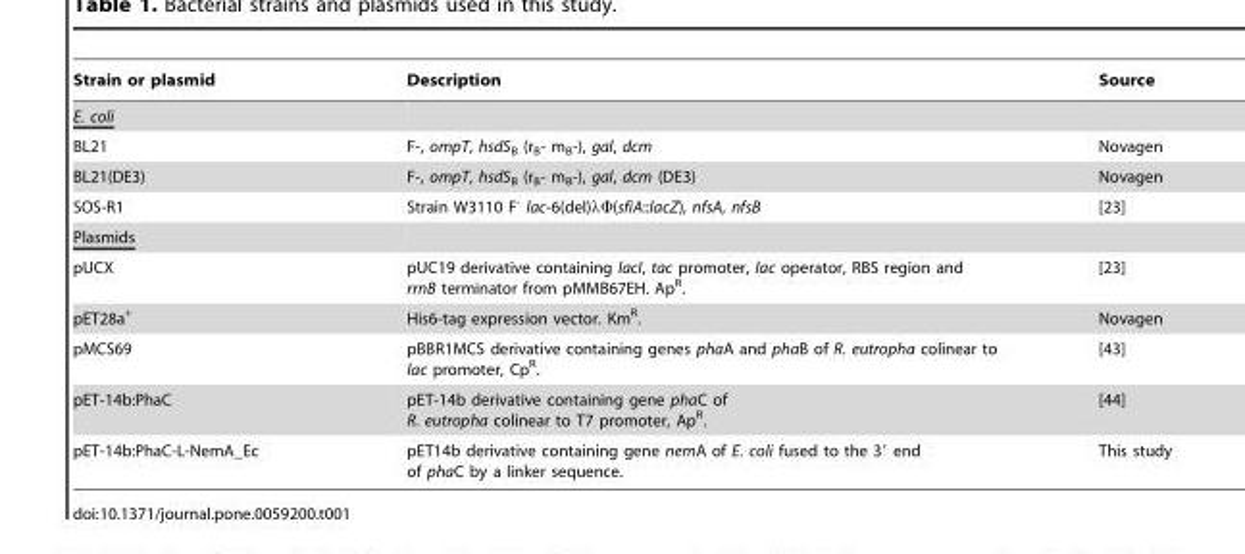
<table><thead><tr><td>Strain or plasmid</td><td>Description</td><td>Source</td></tr></thead><tbody><tr><td colspan="3">E. coli</td></tr><tr><td>BL21</td><td>F-, ompT, hsdS<sub>B</sub> (r<sub>B</sub>- m<sub>B</sub>-), gal, dcm</td><td>Novagen</td></tr><tr><td>BL21(DE3)</td><td>F-, ompT, hsdS<sub>B</sub> (r<sub>B</sub>- m<sub>B</sub>-), gal, dcm (DE3)</td><td>Novagen</td></tr><tr><td>SOS-R1</td><td>Strain W3110 F<sup>-</sup> lac-6(del)λΦ(sfiA::lacZ), nfsA, nfsB</td><td>[23]</td></tr><tr><td colspan="3">Plasmids</td></tr><tr><td>pUCX</td><td>pUC19 derivative containing lacI, tac promoter, lac operator, RBS region and rrnB terminator from pMMB67EH. Ap<sup>R</sup>.</td><td>[23]</td></tr><tr><td>pET28a<sup>+</sup></td><td>His6-tag expression vector. Km<sup>R</sup>.</td><td>Novagen</td></tr><tr><td>pMCS69</td><td>pBBR1MCS derivative containing genes phaA and phaB of R. eutropha colinear to lac promoter, Cp<sup>R</sup>.</td><td>[43]</td></tr><tr><td>pET-14b:PhaC</td><td>pET-14b derivative containing gene phaC of R. eutropha colinear to T7 promoter, Ap<sup>R</sup>.</td><td>[44]</td></tr><tr><td>pET-14b:PhaC-L-NemA_Ec</td><td>pET14b derivative containing gene nemA of E. coli fused to the 3′ end of phaC by a linker sequence.</td><td>This study</td></tr></tbody></table>